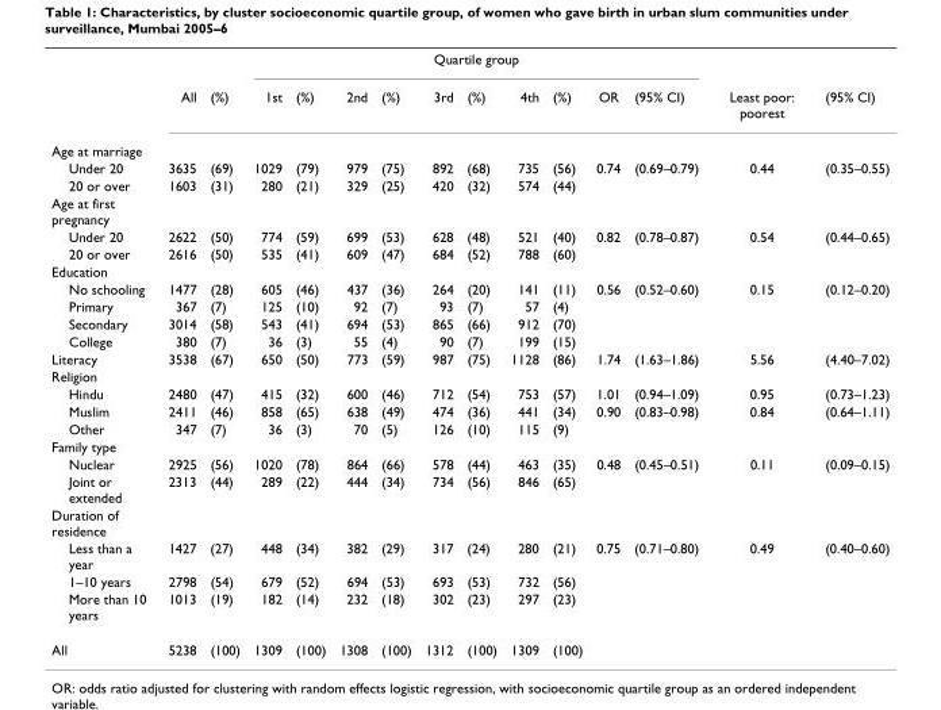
<table><thead><tr><td rowspan="2"></td><td rowspan="2">All</td><td rowspan="2">(%)</td><td colspan="10">Quartile group</td><td rowspan="2">Least poor: poorest</td><td rowspan="2">(95% CI)</td></tr><tr><td>1st</td><td>(%)</td><td>2nd</td><td>(%)</td><td>3rd</td><td>(%)</td><td>4th</td><td>(%)</td><td>OR</td><td>(95% CI)</td></tr></thead><tbody><tr><td colspan="15">Age at marriage</td></tr><tr><td>Under 20</td><td>3635</td><td>(69)</td><td>1029</td><td>(79)</td><td>979</td><td>(75)</td><td>892</td><td>(68)</td><td>735</td><td>(56)</td><td>0.74</td><td>(0.69–0.79)</td><td>0.44</td><td>(0.35–0.55)</td></tr><tr><td>20 or over</td><td>1603</td><td>(31)</td><td>280</td><td>(21)</td><td>329</td><td>(25)</td><td>420</td><td>(32)</td><td>574</td><td>(44)</td><td></td><td></td><td></td><td></td></tr><tr><td colspan="15">Age at first pregnancy</td></tr><tr><td>Under 20</td><td>2622</td><td>(50)</td><td>774</td><td>(59)</td><td>699</td><td>(53)</td><td>628</td><td>(48)</td><td>521</td><td>(40)</td><td>0.82</td><td>(0.78–0.87)</td><td>0.54</td><td>(0.44–0.65)</td></tr><tr><td>20 or over</td><td>2616</td><td>(50)</td><td>535</td><td>(41)</td><td>609</td><td>(47)</td><td>684</td><td>(52)</td><td>788</td><td>(60)</td><td></td><td></td><td></td><td></td></tr><tr><td colspan="15">Education</td></tr><tr><td>No schooling</td><td>1477</td><td>(28)</td><td>605</td><td>(46)</td><td>437</td><td>(36)</td><td>264</td><td>(20)</td><td>141</td><td>(11)</td><td>0.56</td><td>(0.52–0.60)</td><td>0.15</td><td>(0.12–0.20)</td></tr><tr><td>Primary</td><td>367</td><td>(7)</td><td>125</td><td>(10)</td><td>92</td><td>(7)</td><td>93</td><td>(7)</td><td>57</td><td>(4)</td><td></td><td></td><td></td><td></td></tr><tr><td>Secondary</td><td>3014</td><td>(58)</td><td>543</td><td>(41)</td><td>694</td><td>(53)</td><td>865</td><td>(66)</td><td>912</td><td>(70)</td><td></td><td></td><td></td><td></td></tr><tr><td>College</td><td>380</td><td>(7)</td><td>36</td><td>(3)</td><td>55</td><td>(4)</td><td>90</td><td>(7)</td><td>199</td><td>(15)</td><td></td><td></td><td></td><td></td></tr><tr><td>Literacy</td><td>3538</td><td>(67)</td><td>650</td><td>(50)</td><td>773</td><td>(59)</td><td>987</td><td>(75)</td><td>1128</td><td>(86)</td><td>1.74</td><td>(1.63–1.86)</td><td>5.56</td><td>(4.40–7.02)</td></tr><tr><td colspan="15">Religion</td></tr><tr><td>Hindu</td><td>2480</td><td>(47)</td><td>415</td><td>(32)</td><td>600</td><td>(46)</td><td>712</td><td>(54)</td><td>753</td><td>(57)</td><td>1.01</td><td>(0.94–1.09)</td><td>0.95</td><td>(0.73–1.23)</td></tr><tr><td>Muslim</td><td>2411</td><td>(46)</td><td>858</td><td>(65)</td><td>638</td><td>(49)</td><td>474</td><td>(36)</td><td>441</td><td>(34)</td><td>0.90</td><td>(0.83–0.98)</td><td>0.84</td><td>(0.64–1.11)</td></tr><tr><td>Other</td><td>347</td><td>(7)</td><td>36</td><td>(3)</td><td>70</td><td>(5)</td><td>126</td><td>(10)</td><td>115</td><td>(9)</td><td></td><td></td><td></td><td></td></tr><tr><td colspan="15">Family type</td></tr><tr><td>Nuclear</td><td>2925</td><td>(56)</td><td>1020</td><td>(78)</td><td>864</td><td>(66)</td><td>578</td><td>(44)</td><td>463</td><td>(35)</td><td>0.48</td><td>(0.45–0.51)</td><td>0.11</td><td>(0.09–0.15)</td></tr><tr><td>Joint or extended</td><td>2313</td><td>(44)</td><td>289</td><td>(22)</td><td>444</td><td>(34)</td><td>734</td><td>(56)</td><td>846</td><td>(65)</td><td></td><td></td><td></td><td></td></tr><tr><td colspan="15">Duration of residence</td></tr><tr><td>Less than a year</td><td>1427</td><td>(27)</td><td>448</td><td>(34)</td><td>382</td><td>(29)</td><td>317</td><td>(24)</td><td>280</td><td>(21)</td><td>0.75</td><td>(0.71–0.80)</td><td>0.49</td><td>(0.40–0.60)</td></tr><tr><td>1–10 years</td><td>2798</td><td>(54)</td><td>679</td><td>(52)</td><td>694</td><td>(53)</td><td>693</td><td>(53)</td><td>732</td><td>(56)</td><td></td><td></td><td></td><td></td></tr><tr><td>More than 10 years</td><td>1013</td><td>(19)</td><td>182</td><td>(14)</td><td>232</td><td>(18)</td><td>302</td><td>(23)</td><td>297</td><td>(23)</td><td></td><td></td><td></td><td></td></tr><tr><td>All</td><td>5238</td><td>(100)</td><td>1309</td><td>(100)</td><td>1308</td><td>(100)</td><td>1312</td><td>(100)</td><td>1309</td><td>(100)</td><td></td><td></td><td></td><td></td></tr></tbody></table>